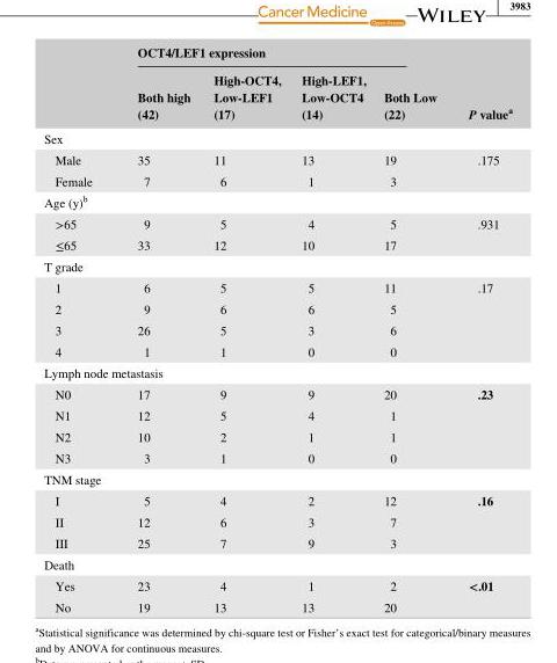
<table><thead><tr><td rowspan="2"></td><td colspan="4">OCT4/LEF1 expression</td><td rowspan="2">P value<sup>a</sup></td></tr><tr><td>Both high (42)</td><td>High- OCT4, Low- LEF1 (17)</td><td>High- LEF1, Low- OCT4 (14)</td><td>Both Low (22)</td></tr></thead><tbody><tr><td colspan="6">Sex</td></tr><tr><td>Male</td><td>35</td><td>11</td><td>13</td><td>19</td><td rowspan="2">.175</td></tr><tr><td>Female</td><td>7</td><td>6</td><td>1</td><td>3</td></tr><tr><td colspan="6">Age (y)<sup>b</sup></td></tr><tr><td>&gt;65</td><td>9</td><td>5</td><td>4</td><td>5</td><td rowspan="2">.931</td></tr><tr><td>≤65</td><td>33</td><td>12</td><td>10</td><td>17</td></tr><tr><td colspan="6">T grade</td></tr><tr><td>1</td><td>6</td><td>5</td><td>5</td><td>11</td><td rowspan="4">.17</td></tr><tr><td>2</td><td>9</td><td>6</td><td>6</td><td>5</td></tr><tr><td>3</td><td>26</td><td>5</td><td>3</td><td>6</td></tr><tr><td>4</td><td>1</td><td>1</td><td>0</td><td>0</td></tr><tr><td colspan="6">Lymph node metastasis</td></tr><tr><td>N0</td><td>17</td><td>9</td><td>9</td><td>20</td><td rowspan="4">.23</td></tr><tr><td>N1</td><td>12</td><td>5</td><td>4</td><td>1</td></tr><tr><td>N2</td><td>10</td><td>2</td><td>1</td><td>1</td></tr><tr><td>N3</td><td>3</td><td>1</td><td>0</td><td>0</td></tr><tr><td colspan="6">TNM stage</td></tr><tr><td>I</td><td>5</td><td>4</td><td>2</td><td>12</td><td rowspan="3">.16</td></tr><tr><td>II</td><td>12</td><td>6</td><td>3</td><td>7</td></tr><tr><td>III</td><td>25</td><td>7</td><td>9</td><td>3</td></tr><tr><td colspan="6">Death</td></tr><tr><td>Yes</td><td>23</td><td>4</td><td>1</td><td>2</td><td rowspan="2">&lt;.01</td></tr><tr><td>No</td><td>19</td><td>13</td><td>13</td><td>20</td></tr></tbody></table>